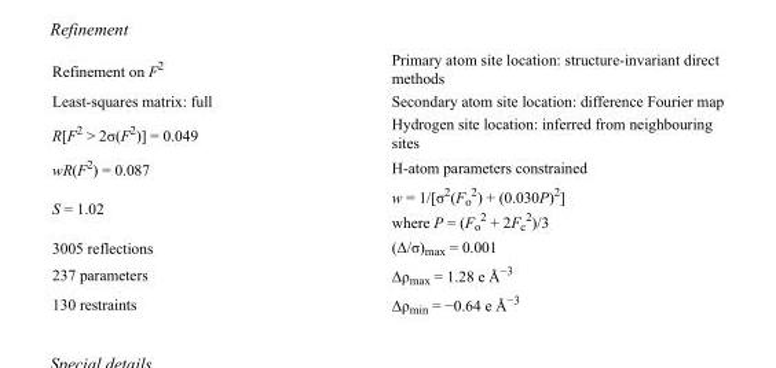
<table><tbody><tr><td>Refinement on F<sup>2</sup></td><td>Primary atom site location: structure-invariant direct methods</td></tr><tr><td>Least-squares matrix: full</td><td>Secondary atom site location: difference Fourier map</td></tr><tr><td>R[F<sup>2</sup> &gt; 2σ(F<sup>2</sup>)] = 0.049</td><td>Hydrogen site location: inferred from neighbouring sites</td></tr><tr><td>wR(F<sup>2</sup>) = 0.087</td><td>H-atom parameters constrained</td></tr><tr><td>S = 1.02</td><td>w = 1/[σ<sup>2</sup>(F<sub>o</sub> <sup>2</sup>) + (0.030P)<sup>2</sup>] where P = (F<sub>o</sub> <sup>2</sup> + 2F<sub>c</sub> <sup>2</sup>)/3</td></tr><tr><td>3005 reflections</td><td>(Δ/σ)<sub>max</sub> = 0.001</td></tr><tr><td>237 parameters</td><td>Δρ<sub>max</sub> = 1.28 e Å<sup>−3</sup></td></tr><tr><td>130 restraints</td><td>Δρ<sub>min</sub> = −0.64 e Å<sup>−3</sup></td></tr></tbody></table>